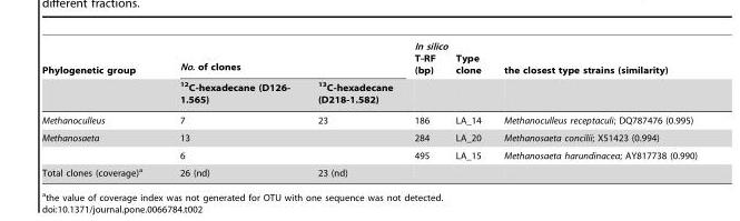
<table><thead><tr><td rowspan="2">Phylogenetic group</td><td colspan="2">No. of clones</td><td rowspan="2">In silico T-RF (bp)</td><td rowspan="2">Type clone</td><td rowspan="2">the closest type strains (similarity)</td></tr><tr><td><sup>12</sup>C-hexadecane (D126- 1.565)</td><td><sup>13</sup>C-hexadecane (D218-1.582)</td></tr></thead><tbody><tr><td>Methanoculleus</td><td>7</td><td>23</td><td>186</td><td>LA_14</td><td>Methanoculleus receptaculi; DQ787476 (0.995)</td></tr><tr><td rowspan="2">Methanosaeta</td><td>13</td><td></td><td>284</td><td>LA_20</td><td>Methanosaeta concilii; X51423 (0.994)</td></tr><tr><td>6</td><td></td><td>495</td><td>LA_15</td><td>Methanosaeta harundinacea; AY817738 (0.990)</td></tr><tr><td>Total clones (coverage)<sup>a</sup></td><td>26 (nd)</td><td>23 (nd)</td><td></td><td></td><td></td></tr></tbody></table>